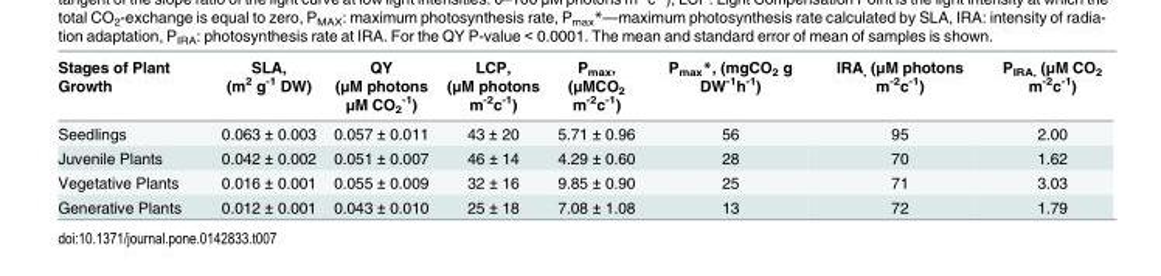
<table><thead><tr><td>Stages of Plant Growth</td><td>SLA, (m<sup>2</sup> g<sup>-1</sup> DW)</td><td>QY (μM photons μM CO<sub>2</sub> <sup>-1</sup>)</td><td>LCP, (μM photons m<sup>-2</sup>c<sup>-1</sup>)</td><td>P<sub>max</sub>, (μMCO<sub>2</sub> m<sup>-2</sup>c<sup>-1</sup>)</td><td>P<sub>max</sub>*, (mgCO<sub>2</sub> g DW<sup>-1</sup>h<sup>-1</sup>)</td><td>IRA<sub>,</sub> (μM photons m<sup>-2</sup>c<sup>-1</sup>)</td><td>P<sub>IRA,</sub> (μM CO<sub>2</sub> m<sup>-2</sup>c<sup>-1</sup>)</td></tr></thead><tbody><tr><td>Seedlings</td><td>0.063 ± 0.003</td><td>0.057 ± 0.011</td><td>43 ± 20</td><td>5.71 ± 0.96</td><td>56</td><td>95</td><td>2.00</td></tr><tr><td>Juvenile Plants</td><td>0.042 ± 0.002</td><td>0.051 ± 0.007</td><td>46 ± 14</td><td>4.29 ± 0.60</td><td>28</td><td>70</td><td>1.62</td></tr><tr><td>Vegetative Plants</td><td>0.016 ± 0.001</td><td>0.055 ± 0.009</td><td>32 ± 16</td><td>9.85 ± 0.90</td><td>25</td><td>71</td><td>3.03</td></tr><tr><td>Generative Plants</td><td>0.012 ± 0.001</td><td>0.043 ± 0.010</td><td>25 ± 18</td><td>7.08 ± 1.08</td><td>13</td><td>72</td><td>1.79</td></tr></tbody></table>